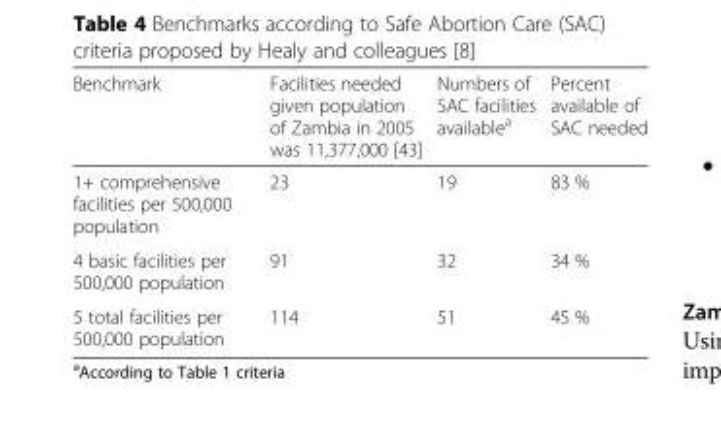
<table><thead><tr><td>Benchmark</td><td>Facilities needed given population of Zambia in 2005 was 11,377,000 [43]</td><td>Numbers of SAC facilities available<sup>a</sup></td><td>Percent available of SAC needed</td></tr></thead><tbody><tr><td>1+ comprehensive facilities per 500,000 population</td><td>23</td><td>19</td><td>83 %</td></tr><tr><td>4 basic facilities per 500,000 population</td><td>91</td><td>32</td><td>34 %</td></tr><tr><td>5 total facilities per 500,000 population</td><td>114</td><td>51</td><td>45 %</td></tr></tbody></table>